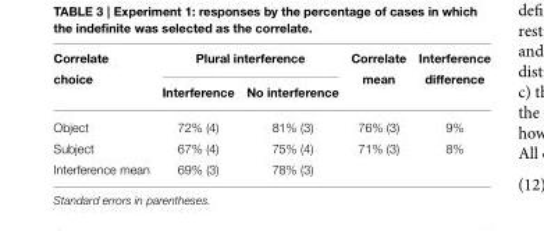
<table><thead><tr><td rowspan="2">Correlate choice</td><td colspan="2">Plural interference</td><td rowspan="2">Correlate mean</td><td rowspan="2">Interference difference</td></tr><tr><td>Interference</td><td>No interference</td></tr></thead><tbody><tr><td>Object</td><td>72% (4)</td><td>81% (3)</td><td>76% (3)</td><td>9%</td></tr><tr><td>Subject</td><td>67% (4)</td><td>75% (4)</td><td>71% (3)</td><td>8%</td></tr><tr><td>Interference mean</td><td>69% (3)</td><td>78% (3)</td><td></td><td></td></tr></tbody></table>